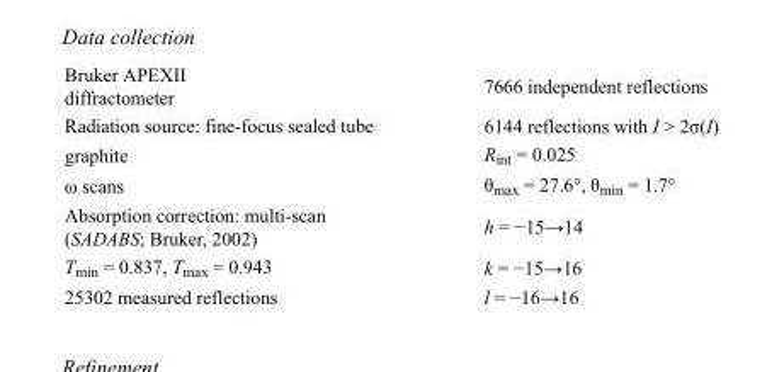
<table><tbody><tr><td>Bruker APEXII diffractometer</td><td>7666 independent reflections</td></tr><tr><td>Radiation source: fine-focus sealed tube</td><td>6144 reflections with I &gt; 2σ(I)</td></tr><tr><td>graphite</td><td>R<sub>int</sub> = 0.025</td></tr><tr><td>ω scans</td><td>θ<sub>max</sub> = 27.6°, θ<sub>min</sub> = 1.7°</td></tr><tr><td>Absorption correction: multi-scan (SADABS; Bruker, 2002)</td><td>h = −15→14</td></tr><tr><td>T<sub>min</sub> = 0.837, T<sub>max</sub> = 0.943</td><td>k = −15→16</td></tr><tr><td>25302 measured reflections</td><td>l = −16→16</td></tr></tbody></table>